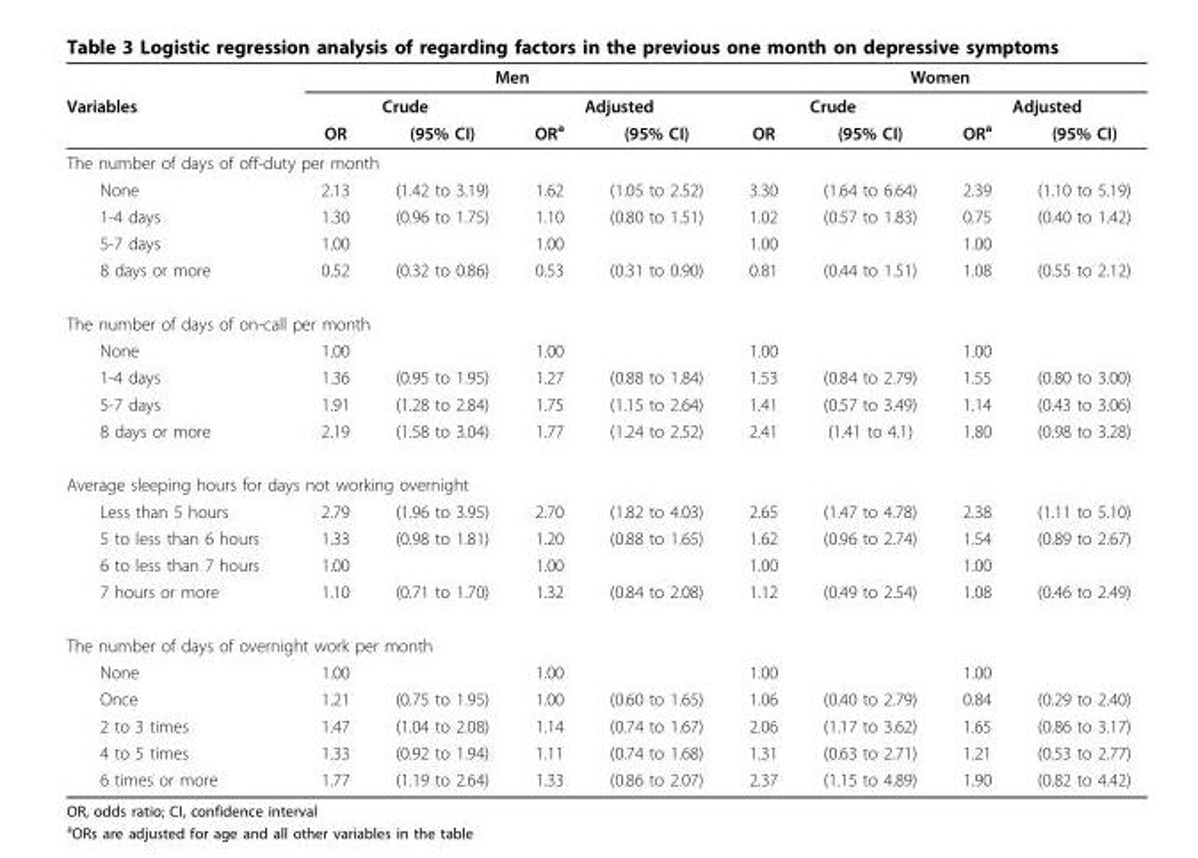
<table><thead><tr><td rowspan="3">Variables</td><td colspan="4">Men</td><td colspan="4">Women</td></tr><tr><td colspan="2">Crude</td><td colspan="2">Adjusted</td><td colspan="2">Crude</td><td colspan="2">Adjusted</td></tr><tr><td>OR</td><td>(95% CI)</td><td>OR<sup>a</sup></td><td>(95% CI)</td><td>OR</td><td>(95% CI)</td><td>OR<sup>a</sup></td><td>(95% CI)</td></tr></thead><tbody><tr><td colspan="9">The number of days of off-duty per month</td></tr><tr><td>None</td><td>2.13</td><td>(1.42 to 3.19)</td><td>1.62</td><td>(1.05 to 2.52)</td><td>3.30</td><td>(1.64 to 6.64)</td><td>2.39</td><td>(1.10 to 5.19)</td></tr><tr><td>1-4 days</td><td>1.30</td><td>(0.96 to 1.75)</td><td>1.10</td><td>(0.80 to 1.51)</td><td>1.02</td><td>(0.57 to 1.83)</td><td>0.75</td><td>(0.40 to 1.42)</td></tr><tr><td>5-7 days</td><td>1.00</td><td></td><td>1.00</td><td></td><td>1.00</td><td></td><td>1.00</td><td></td></tr><tr><td>8 days or more</td><td>0.52</td><td>(0.32 to 0.86)</td><td>0.53</td><td>(0.31 to 0.90)</td><td>0.81</td><td>(0.44 to 1.51)</td><td>1.08</td><td>(0.55 to 2.12)</td></tr><tr><td colspan="9">The number of days of on-call per month</td></tr><tr><td>None</td><td>1.00</td><td></td><td>1.00</td><td></td><td>1.00</td><td></td><td>1.00</td><td></td></tr><tr><td>1-4 days</td><td>1.36</td><td>(0.95 to 1.95)</td><td>1.27</td><td>(0.88 to 1.84)</td><td>1.53</td><td>(0.84 to 2.79)</td><td>1.55</td><td>(0.80 to 3.00)</td></tr><tr><td>5-7 days</td><td>1.91</td><td>(1.28 to 2.84)</td><td>1.75</td><td>(1.15 to 2.64)</td><td>1.41</td><td>(0.57 to 3.49)</td><td>1.14</td><td>(0.43 to 3.06)</td></tr><tr><td>8 days or more</td><td>2.19</td><td>(1.58 to 3.04)</td><td>1.77</td><td>(1.24 to 2.52)</td><td>2.41</td><td>(1.41 to 4.1)</td><td>1.80</td><td>(0.98 to 3.28)</td></tr><tr><td colspan="9">Average sleeping hours for days not working overnight</td></tr><tr><td>Less than 5 hours</td><td>2.79</td><td>(1.96 to 3.95)</td><td>2.70</td><td>(1.82 to 4.03)</td><td>2.65</td><td>(1.47 to 4.78)</td><td>2.38</td><td>(1.11 to 5.10)</td></tr><tr><td>5 to less than 6 hours</td><td>1.33</td><td>(0.98 to 1.81)</td><td>1.20</td><td>(0.88 to 1.65)</td><td>1.62</td><td>(0.96 to 2.74)</td><td>1.54</td><td>(0.89 to 2.67)</td></tr><tr><td>6 to less than 7 hours</td><td>1.00</td><td></td><td>1.00</td><td></td><td>1.00</td><td></td><td>1.00</td><td></td></tr><tr><td>7 hours or more</td><td>1.10</td><td>(0.71 to 1.70)</td><td>1.32</td><td>(0.84 to 2.08)</td><td>1.12</td><td>(0.49 to 2.54)</td><td>1.08</td><td>(0.46 to 2.49)</td></tr><tr><td colspan="9">The number of days of overnight work per month</td></tr><tr><td>None</td><td>1.00</td><td></td><td>1.00</td><td></td><td>1.00</td><td></td><td>1.00</td><td></td></tr><tr><td>Once</td><td>1.21</td><td>(0.75 to 1.95)</td><td>1.00</td><td>(0.60 to 1.65)</td><td>1.06</td><td>(0.40 to 2.79)</td><td>0.84</td><td>(0.29 to 2.40)</td></tr><tr><td>2 to 3 times</td><td>1.47</td><td>(1.04 to 2.08)</td><td>1.14</td><td>(0.74 to 1.67)</td><td>2.06</td><td>(1.17 to 3.62)</td><td>1.65</td><td>(0.86 to 3.17)</td></tr><tr><td>4 to 5 times</td><td>1.33</td><td>(0.92 to 1.94)</td><td>1.11</td><td>(0.74 to 1.68)</td><td>1.31</td><td>(0.63 to 2.71)</td><td>1.21</td><td>(0.53 to 2.77)</td></tr><tr><td>6 times or more</td><td>1.77</td><td>(1.19 to 2.64)</td><td>1.33</td><td>(0.86 to 2.07)</td><td>2.37</td><td>(1.15 to 4.89)</td><td>1.90</td><td>(0.82 to 4.42)</td></tr></tbody></table>